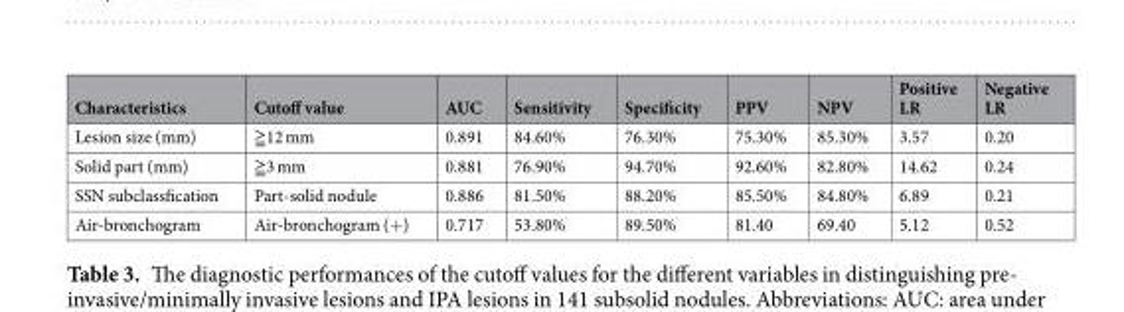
<table><thead><tr><td>Characteristics</td><td>Cutoff value</td><td>AUC</td><td>Sensitivity</td><td>Specificity</td><td>PPV</td><td>NPV</td><td>Positive LR</td><td>Negative LR</td></tr></thead><tbody><tr><td>Lesion size (mm)</td><td>≧12 mm</td><td>0.891</td><td>84.60%</td><td>76.30%</td><td>75.30%</td><td>85.30%</td><td>3.57</td><td>0.20</td></tr><tr><td>Solid part (mm)</td><td>≧3 mm</td><td>0.881</td><td>76.90%</td><td>94.70%</td><td>92.60%</td><td>82.80%</td><td>14.62</td><td>0.24</td></tr><tr><td>SSN subclassfication</td><td>Part-solid nodule</td><td>0.886</td><td>81.50%</td><td>88.20%</td><td>85.50%</td><td>84.80%</td><td>6.89</td><td>0.21</td></tr><tr><td>Air-bronchogram</td><td>Air-bronchogram (+)</td><td>0.717</td><td>53.80%</td><td>89.50%</td><td>81.40</td><td>69.40</td><td>5.12</td><td>0.52</td></tr></tbody></table>